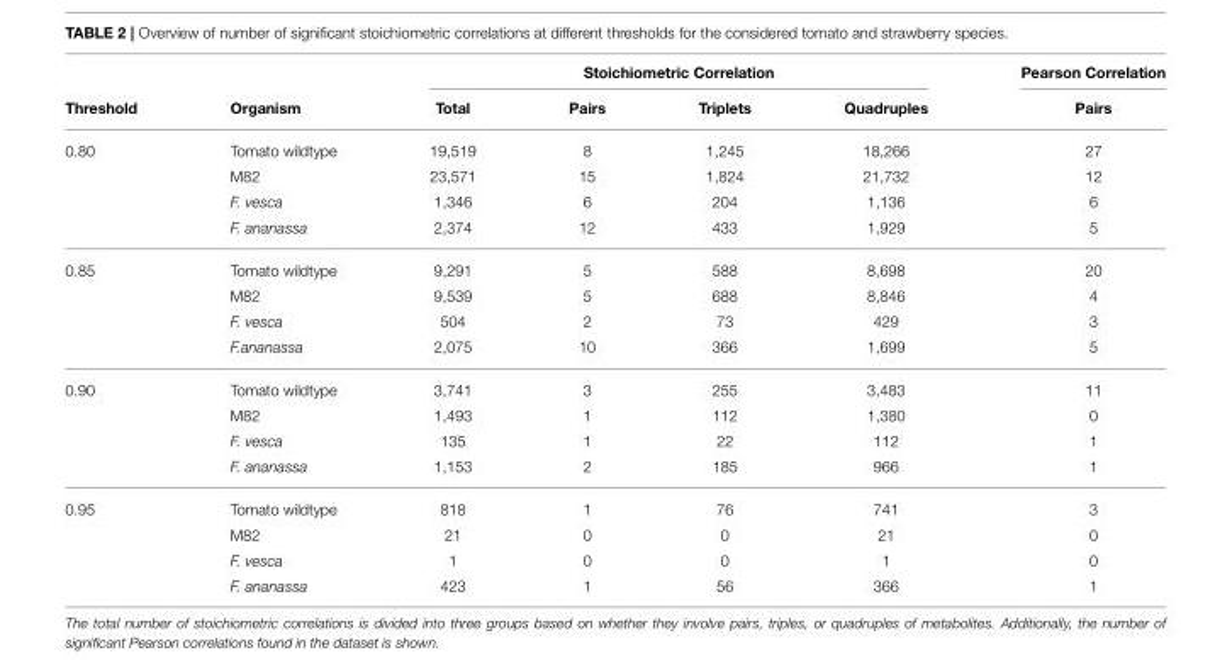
<table><thead><tr><td rowspan="2">Threshold</td><td rowspan="2">Organism</td><td colspan="4">Stoichiometric Correlation</td><td rowspan="2">Pearson Correlation Pairs</td></tr><tr><td>Total</td><td>Pairs</td><td>Triplets</td><td>Quadruples</td></tr></thead><tbody><tr><td rowspan="4">0.80</td><td>Tomato wildtype</td><td>19,519</td><td>8</td><td>1,245</td><td>18,266</td><td>27</td></tr><tr><td>M82</td><td>23,571</td><td>15</td><td>1,824</td><td>21,732</td><td>12</td></tr><tr><td>F. vesca</td><td>1,346</td><td>6</td><td>204</td><td>1,136</td><td>6</td></tr><tr><td>F. ananassa</td><td>2,374</td><td>12</td><td>433</td><td>1,929</td><td>5</td></tr><tr><td rowspan="4">0.85</td><td>Tomato wildtype</td><td>9,291</td><td>5</td><td>588</td><td>8,698</td><td>20</td></tr><tr><td>M82</td><td>9,539</td><td>5</td><td>688</td><td>8,846</td><td>4</td></tr><tr><td>F. vesca</td><td>504</td><td>2</td><td>73</td><td>429</td><td>3</td></tr><tr><td>F.ananassa</td><td>2,075</td><td>10</td><td>366</td><td>1,699</td><td>5</td></tr><tr><td rowspan="4">0.90</td><td>Tomato wildtype</td><td>3,741</td><td>3</td><td>255</td><td>3,483</td><td>11</td></tr><tr><td>M82</td><td>1,493</td><td>1</td><td>112</td><td>1,380</td><td>0</td></tr><tr><td>F. vesca</td><td>135</td><td>1</td><td>22</td><td>112</td><td>1</td></tr><tr><td>F. ananassa</td><td>1,153</td><td>2</td><td>185</td><td>966</td><td>1</td></tr><tr><td rowspan="4">0.95</td><td>Tomato wildtype</td><td>818</td><td>1</td><td>76</td><td>741</td><td>3</td></tr><tr><td>M82</td><td>21</td><td>0</td><td>0</td><td>21</td><td>0</td></tr><tr><td>F. vesca</td><td>1</td><td>0</td><td>0</td><td>1</td><td>0</td></tr><tr><td>F. ananassa</td><td>423</td><td>1</td><td>56</td><td>366</td><td>1</td></tr></tbody></table>